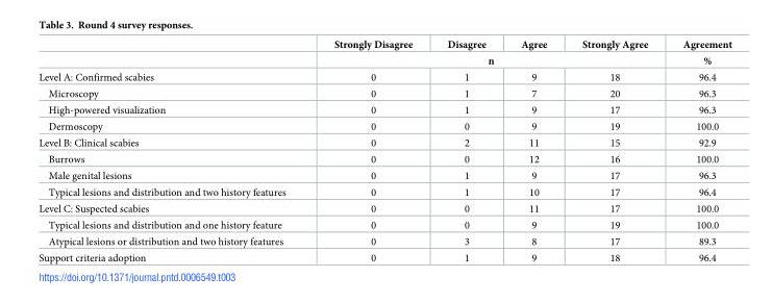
<table><thead><tr><td rowspan="2"></td><td>Strongly Disagree</td><td>Disagree</td><td>Agree</td><td>Strongly Agree</td><td rowspan="2">Agreement %</td></tr><tr><td colspan="4">n</td></tr></thead><tbody><tr><td>Level A: Confirmed scabies</td><td>0</td><td>1</td><td>9</td><td>18</td><td>96.4</td></tr><tr><td>Microscopy</td><td>0</td><td>1</td><td>7</td><td>20</td><td>96.3</td></tr><tr><td>High-powered visualization</td><td>0</td><td>1</td><td>9</td><td>17</td><td>96.3</td></tr><tr><td>Dermoscopy</td><td>0</td><td>0</td><td>9</td><td>19</td><td>100.0</td></tr><tr><td>Level B: Clinical scabies</td><td>0</td><td>2</td><td>11</td><td>15</td><td>92.9</td></tr><tr><td>Burrows</td><td>0</td><td>0</td><td>12</td><td>16</td><td>100.0</td></tr><tr><td>Male genital lesions</td><td>0</td><td>1</td><td>9</td><td>17</td><td>96.3</td></tr><tr><td>Typical lesions and distribution and two history features</td><td>0</td><td>1</td><td>10</td><td>17</td><td>96.4</td></tr><tr><td>Level C: Suspected scabies</td><td>0</td><td>0</td><td>11</td><td>17</td><td>100.0</td></tr><tr><td>Typical lesions and distribution and one history feature</td><td>0</td><td>0</td><td>9</td><td>19</td><td>100.0</td></tr><tr><td>Atypical lesions or distribution and two history features</td><td>0</td><td>3</td><td>8</td><td>17</td><td>89.3</td></tr><tr><td>Support criteria adoption</td><td>0</td><td>1</td><td>9</td><td>18</td><td>96.4</td></tr></tbody></table>